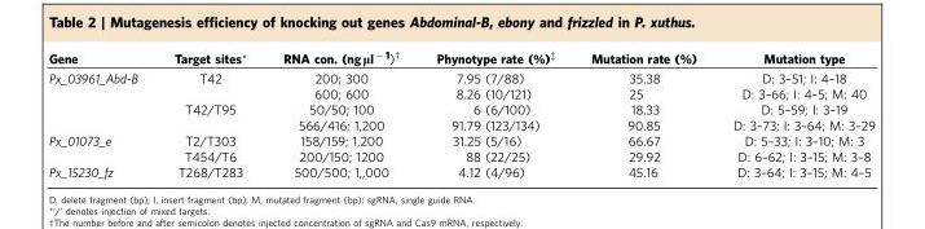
<table><thead><tr><td>Gene</td><td>Target sites*</td><td>RNA con. (ng μl <sup>− 1</sup>)†</td><td>Phynotype rate (%)‡</td><td>Mutation rate (%)</td><td>Mutation type</td></tr></thead><tbody><tr><td rowspan="4">Px_03961_Abd-B</td><td>T42</td><td>200; 300</td><td>7.95 (7/88)</td><td>35.38</td><td>D: 3–51; I: 4–18</td></tr><tr><td></td><td>600; 600</td><td>8.26 (10/121)</td><td>25</td><td>D: 3–66; I: 4–5; M: 40</td></tr><tr><td>T42/T95</td><td>50/50; 100</td><td>6 (6/100)</td><td>18.33</td><td>D: 5–59; I: 3–19</td></tr><tr><td></td><td>566/416; 1,200</td><td>91.79 (123/134)</td><td>90.85</td><td>D: 3–73; I: 3–64; M: 3–29</td></tr><tr><td rowspan="2">Px_01073_e</td><td>T2/T303</td><td>158/159; 1,200</td><td>31.25 (5/16)</td><td>66.67</td><td>D: 5–33; I: 3–10; M: 3</td></tr><tr><td>T454/T6</td><td>200/150; 1200</td><td>88 (22/25)</td><td>29.92</td><td>D: 6–62; I: 3–15; M: 3–8</td></tr><tr><td>Px_15230_fz</td><td>T268/T283</td><td>500/500; 1,,000</td><td>4.12 (4/96)</td><td>45.16</td><td>D: 3–64; I: 3–15; M: 4–5</td></tr></tbody></table>